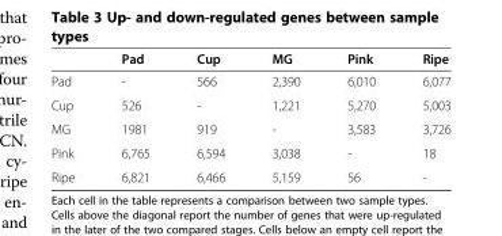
<table><thead><tr><td></td><td>Pad</td><td>Cup</td><td>MG</td><td>Pink</td><td>Ripe</td></tr></thead><tbody><tr><td>Pad</td><td>-</td><td>566</td><td>2,390</td><td>6,010</td><td>6,077</td></tr><tr><td>Cup</td><td>526</td><td>-</td><td>1,221</td><td>5,270</td><td>5,003</td></tr><tr><td>MG</td><td>1981</td><td>919</td><td>-</td><td>3,583</td><td>3,726</td></tr><tr><td>Pink</td><td>6,765</td><td>6,594</td><td>3,038</td><td>-</td><td>18</td></tr><tr><td>Ripe</td><td>6,821</td><td>6,466</td><td>5,159</td><td>56</td><td>-</td></tr></tbody></table>